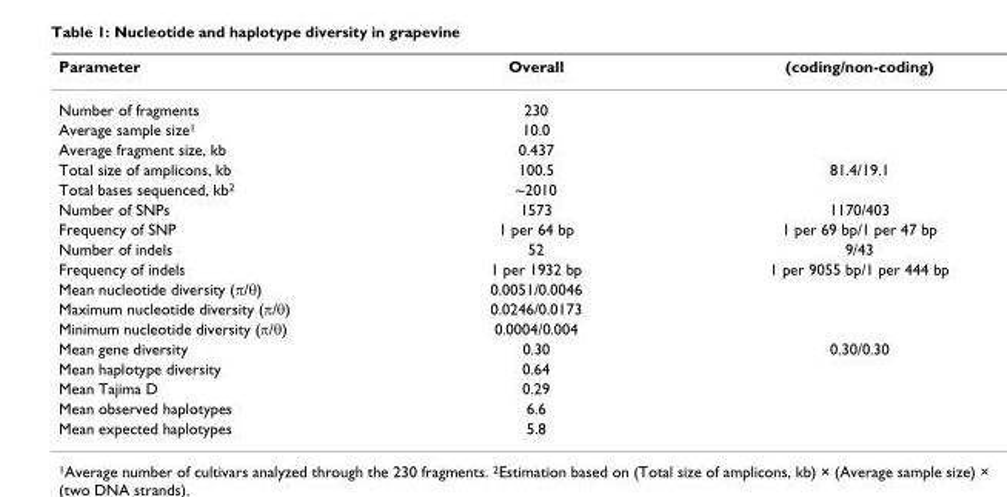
<table><thead><tr><td>Parameter</td><td>Overall</td><td>(coding/non-coding)</td></tr></thead><tbody><tr><td>Number of fragments</td><td>230</td><td></td></tr><tr><td>Average sample size<sup>1</sup></td><td>10.0</td><td></td></tr><tr><td>Average fragment size, kb</td><td>0.437</td><td></td></tr><tr><td>Total size of amplicons, kb</td><td>100.5</td><td>81.4/19.1</td></tr><tr><td>Total bases sequenced, kb<sup>2</sup></td><td>~2010</td><td></td></tr><tr><td>Number of SNPs</td><td>1573</td><td>1170/403</td></tr><tr><td>Frequency of SNP</td><td>1 per 64 bp</td><td>1 per 69 bp/1 per 47 bp</td></tr><tr><td>Number of indels</td><td>52</td><td>9/43</td></tr><tr><td>Frequency of indels</td><td>1 per 1932 bp</td><td>1 per 9055 bp/1 per 444 bp</td></tr><tr><td>Mean nucleotide diversity (π/θ)</td><td>0.0051/0.0046</td><td></td></tr><tr><td>Maximum nucleotide diversity (π/θ)</td><td>0.0246/0.0173</td><td></td></tr><tr><td>Minimum nucleotide diversity (π/θ)</td><td>0.0004/0.004</td><td></td></tr><tr><td>Mean gene diversity</td><td>0.30</td><td>0.30/0.30</td></tr><tr><td>Mean haplotype diversity</td><td>0.64</td><td></td></tr><tr><td>Mean Tajima D</td><td>0.29</td><td></td></tr><tr><td>Mean observed haplotypes</td><td>6.6</td><td></td></tr><tr><td>Mean expected haplotypes</td><td>5.8</td><td></td></tr></tbody></table>